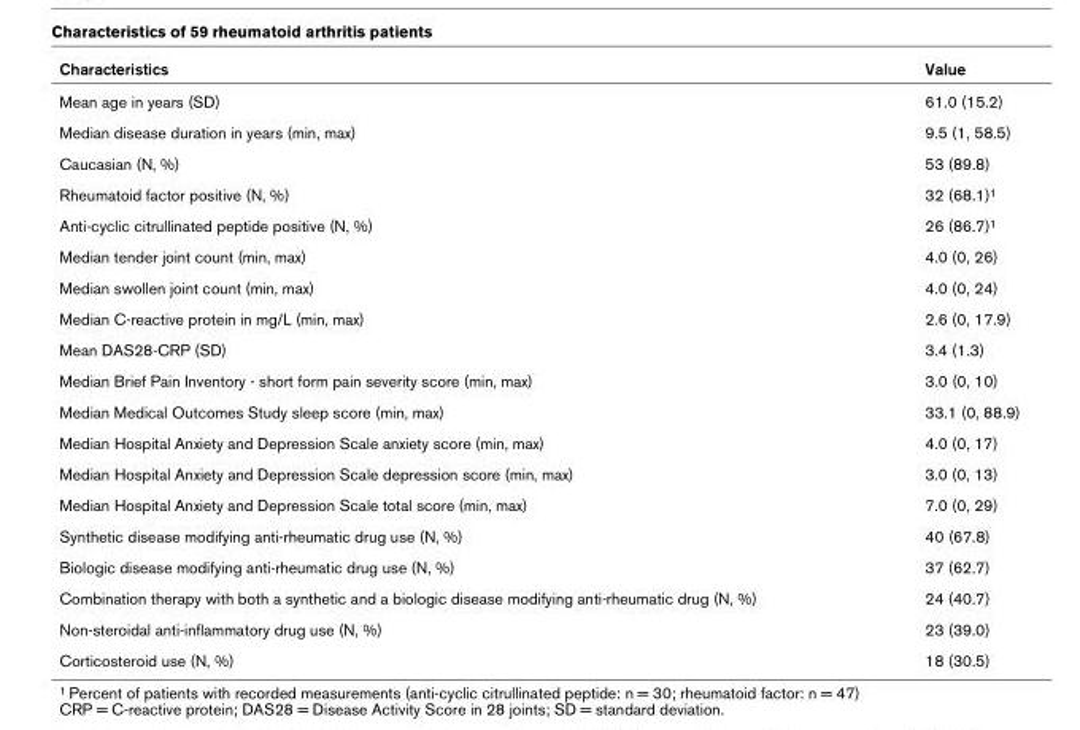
<table><thead><tr><td>Characteristics</td><td>Value</td></tr></thead><tbody><tr><td>Mean age in years (SD)</td><td>61.0 (15.2)</td></tr><tr><td>Median disease duration in years (min, max)</td><td>9.5 (1, 58.5)</td></tr><tr><td>Caucasian (N, %)</td><td>53 (89.8)</td></tr><tr><td>Rheumatoid factor positive (N, %)</td><td>32 (68.1)<sup>1</sup></td></tr><tr><td>Anti-cyclic citrullinated peptide positive (N, %)</td><td>26 (86.7)<sup>1</sup></td></tr><tr><td>Median tender joint count (min, max)</td><td>4.0 (0, 26)</td></tr><tr><td>Median swollen joint count (min, max)</td><td>4.0 (0, 24)</td></tr><tr><td>Median C-reactive protein in mg/L (min, max)</td><td>2.6 (0, 17.9)</td></tr><tr><td>Mean DAS28-CRP (SD)</td><td>3.4 (1.3)</td></tr><tr><td>Median Brief Pain Inventory - short form pain severity score (min, max)</td><td>3.0 (0, 10)</td></tr><tr><td>Median Medical Outcomes Study sleep score (min, max)</td><td>33.1 (0, 88.9)</td></tr><tr><td>Median Hospital Anxiety and Depression Scale anxiety score (min, max)</td><td>4.0 (0, 17)</td></tr><tr><td>Median Hospital Anxiety and Depression Scale depression score (min, max)</td><td>3.0 (0, 13)</td></tr><tr><td>Median Hospital Anxiety and Depression Scale total score (min, max)</td><td>7.0 (0, 29)</td></tr><tr><td>Synthetic disease modifying anti-rheumatic drug use (N, %)</td><td>40 (67.8)</td></tr><tr><td>Biologic disease modifying anti-rheumatic drug use (N, %)</td><td>37 (62.7)</td></tr><tr><td>Combination therapy with both a synthetic and a biologic disease modifying anti-rheumatic drug (N, %)</td><td>24 (40.7)</td></tr><tr><td>Non-steroidal anti-inflammatory drug use (N, %)</td><td>23 (39.0)</td></tr><tr><td>Corticosteroid use (N, %)</td><td>18 (30.5)</td></tr></tbody></table>